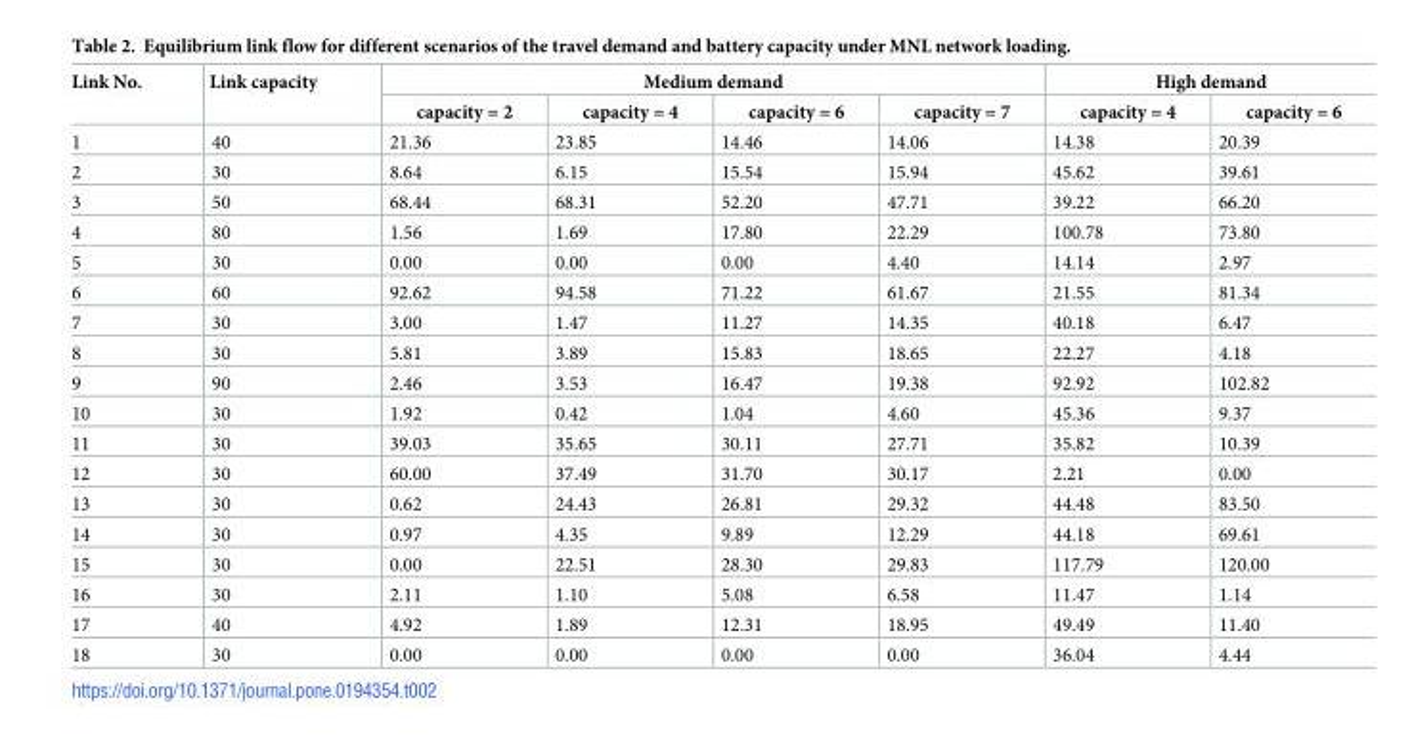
<table><thead><tr><td rowspan="2">Link No.</td><td rowspan="2">Link capacity</td><td colspan="4">Medium demand</td><td colspan="2">High demand</td></tr><tr><td>capacity = 2</td><td>capacity = 4</td><td>capacity = 6</td><td>capacity = 7</td><td>capacity = 4</td><td>capacity = 6</td></tr></thead><tbody><tr><td>1</td><td>40</td><td>21.36</td><td>23.85</td><td>14.46</td><td>14.06</td><td>14.38</td><td>20.39</td></tr><tr><td>2</td><td>30</td><td>8.64</td><td>6.15</td><td>15.54</td><td>15.94</td><td>45.62</td><td>39.61</td></tr><tr><td>3</td><td>50</td><td>68.44</td><td>68.31</td><td>52.20</td><td>47.71</td><td>39.22</td><td>66.20</td></tr><tr><td>4</td><td>80</td><td>1.56</td><td>1.69</td><td>17.80</td><td>22.29</td><td>100.78</td><td>73.80</td></tr><tr><td>5</td><td>30</td><td>0.00</td><td>0.00</td><td>0.00</td><td>4.40</td><td>14.14</td><td>2.97</td></tr><tr><td>6</td><td>60</td><td>92.62</td><td>94.58</td><td>71.22</td><td>61.67</td><td>21.55</td><td>81.34</td></tr><tr><td>7</td><td>30</td><td>3.00</td><td>1.47</td><td>11.27</td><td>14.35</td><td>40.18</td><td>6.47</td></tr><tr><td>8</td><td>30</td><td>5.81</td><td>3.89</td><td>15.83</td><td>18.65</td><td>22.27</td><td>4.18</td></tr><tr><td>9</td><td>90</td><td>2.46</td><td>3.53</td><td>16.47</td><td>19.38</td><td>92.92</td><td>102.82</td></tr><tr><td>10</td><td>30</td><td>1.92</td><td>0.42</td><td>1.04</td><td>4.60</td><td>45.36</td><td>9.37</td></tr><tr><td>11</td><td>30</td><td>39.03</td><td>35.65</td><td>30.11</td><td>27.71</td><td>35.82</td><td>10.39</td></tr><tr><td>12</td><td>30</td><td>60.00</td><td>37.49</td><td>31.70</td><td>30.17</td><td>2.21</td><td>0.00</td></tr><tr><td>13</td><td>30</td><td>0.62</td><td>24.43</td><td>26.81</td><td>29.32</td><td>44.48</td><td>83.50</td></tr><tr><td>14</td><td>30</td><td>0.97</td><td>4.35</td><td>9.89</td><td>12.29</td><td>44.18</td><td>69.61</td></tr><tr><td>15</td><td>30</td><td>0.00</td><td>22.51</td><td>28.30</td><td>29.83</td><td>117.79</td><td>120.00</td></tr><tr><td>16</td><td>30</td><td>2.11</td><td>1.10</td><td>5.08</td><td>6.58</td><td>11.47</td><td>1.14</td></tr><tr><td>17</td><td>40</td><td>4.92</td><td>1.89</td><td>12.31</td><td>18.95</td><td>49.49</td><td>11.40</td></tr><tr><td>18</td><td>30</td><td>0.00</td><td>0.00</td><td>0.00</td><td>0.00</td><td>36.04</td><td>4.44</td></tr></tbody></table>